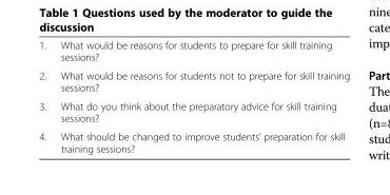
<table><tbody><tr><td>1.</td><td>What would be reasons for students to prepare for skill training sessions?</td></tr><tr><td>2.</td><td>What would be reasons for students not to prepare for skill training sessions?</td></tr><tr><td>3.</td><td>What do you think about the preparatory advice for skill training sessions?</td></tr><tr><td>4.</td><td>What should be changed to improve students’ preparation for skill training sessions?</td></tr></tbody></table>